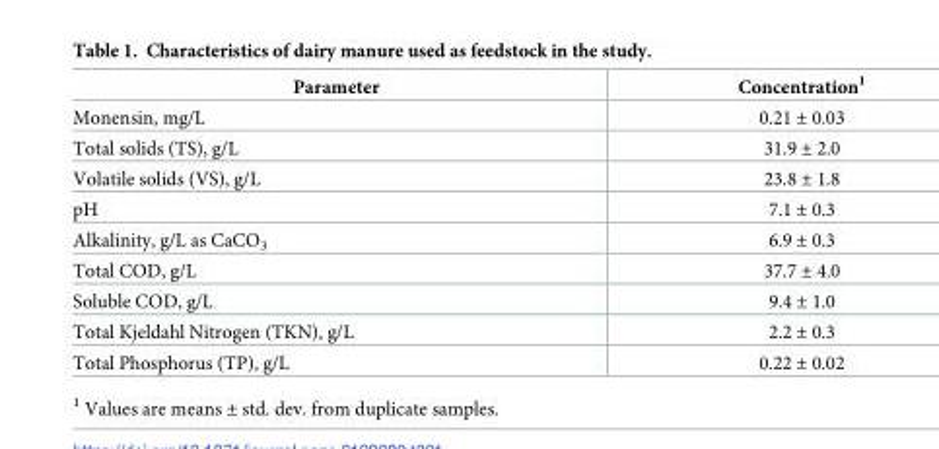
<table><thead><tr><td>Parameter</td><td>Concentration<sup>1</sup></td></tr></thead><tbody><tr><td>Monensin, mg/L</td><td>0.21 ± 0.03</td></tr><tr><td>Total solids (TS), g/L</td><td>31.9 ± 2.0</td></tr><tr><td>Volatile solids (VS), g/L</td><td>23.8 ± 1.8</td></tr><tr><td>pH</td><td>7.1 ± 0.3</td></tr><tr><td>Alkalinity, g/L as CaCO<sub>3</sub></td><td>6.9 ± 0.3</td></tr><tr><td>Total COD, g/L</td><td>37.7 ± 4.0</td></tr><tr><td>Soluble COD, g/L</td><td>9.4 ± 1.0</td></tr><tr><td>Total Kjeldahl Nitrogen (TKN), g/L</td><td>2.2 ± 0.3</td></tr><tr><td>Total Phosphorus (TP), g/L</td><td>0.22 ± 0.02</td></tr></tbody></table>